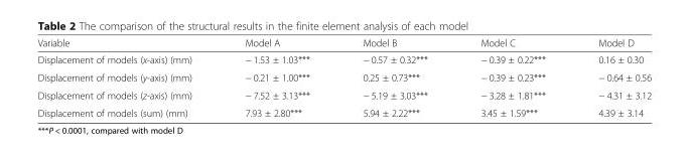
<table><thead><tr><td>Variable</td><td>Model A</td><td>Model B</td><td>Model C</td><td>Model D</td></tr></thead><tbody><tr><td>Displacement of models (x-axis) (mm)</td><td>− 1.53 ± 1.03***</td><td>− 0.57 ± 0.32***</td><td>− 0.39 ± 0.22***</td><td>0.16 ± 0.30</td></tr><tr><td>Displacement of models (y-axis) (mm)</td><td>− 0.21 ± 1.00***</td><td>0.25 ± 0.73***</td><td>− 0.39 ± 0.23***</td><td>− 0.64 ± 0.56</td></tr><tr><td>Displacement of models (z-axis) (mm)</td><td>− 7.52 ± 3.13***</td><td>− 5.19 ± 3.03***</td><td>− 3.28 ± 1.81***</td><td>− 4.31 ± 3.12</td></tr><tr><td>Displacement of models (sum) (mm)</td><td>7.93 ± 2.80***</td><td>5.94 ± 2.22***</td><td>3.45 ± 1.59***</td><td>4.39 ± 3.14</td></tr></tbody></table>